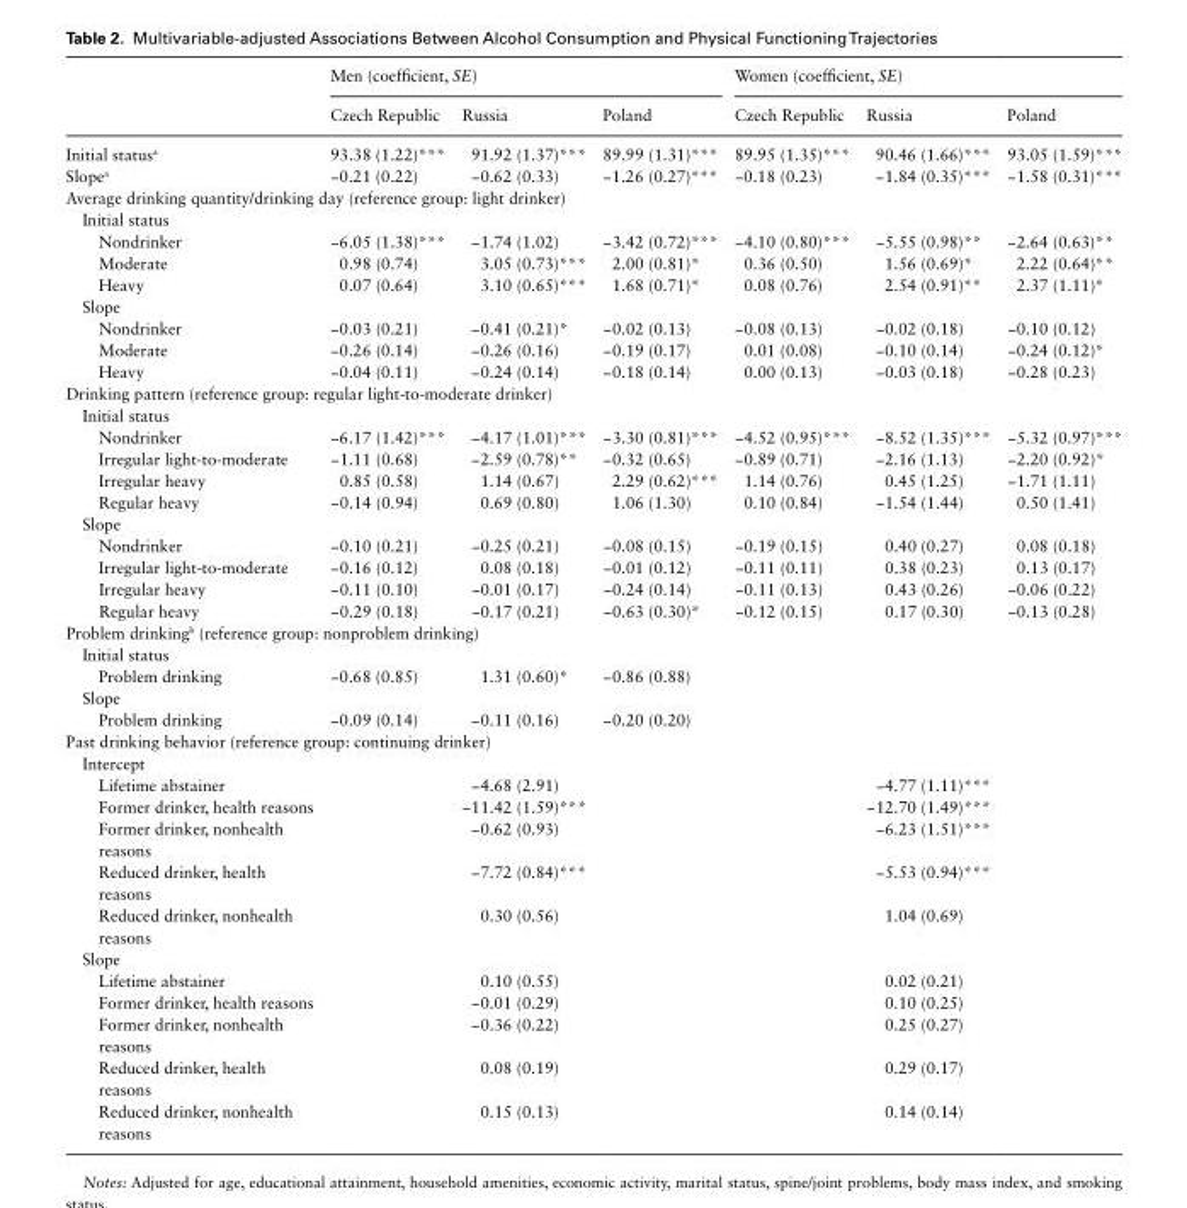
<table><thead><tr><td rowspan="2"></td><td colspan="3">Men (coefficient, SE)</td><td colspan="3">Women (coefficient, SE)</td></tr><tr><td>Czech Republic</td><td>Russia</td><td>Poland</td><td>Czech Republic</td><td>Russia</td><td>Poland</td></tr></thead><tbody><tr><td>Initial status<sup>a</sup></td><td>93.38 (1.22)***</td><td>91.92 (1.37)***</td><td>89.99 (1.31)***</td><td>89.95 (1.35)***</td><td>90.46 (1.66)***</td><td>93.05 (1.59)***</td></tr><tr><td>Slope<sup>a</sup></td><td>−0.21 (0.22)</td><td>−0.62 (0.33)</td><td>−1.26 (0.27)***</td><td>−0.18 (0.23)</td><td>−1.84 (0.35)***</td><td>−1.58 (0.31)***</td></tr><tr><td colspan="7">Average drinking quantity/drinking day (reference group: light drinker)</td></tr><tr><td colspan="7">Initial status</td></tr><tr><td>Nondrinker</td><td>−6.05 (1.38)***</td><td>−1.74 (1.02)</td><td>−3.42 (0.72)***</td><td>−4.10 (0.80)***</td><td>−5.55 (0.98)**</td><td>−2.64 (0.63)**</td></tr><tr><td>Moderate</td><td>0.98 (0.74)</td><td>3.05 (0.73)***</td><td>2.00 (0.81)*</td><td>0.36 (0.50)</td><td>1.56 (0.69)*</td><td>2.22 (0.64)**</td></tr><tr><td>Heavy</td><td>0.07 (0.64)</td><td>3.10 (0.65)***</td><td>1.68 (0.71)*</td><td>0.08 (0.76)</td><td>2.54 (0.91)**</td><td>2.37 (1.11)*</td></tr><tr><td colspan="7">Slope</td></tr><tr><td>Nondrinker</td><td>−0.03 (0.21)</td><td>−0.41 (0.21)*</td><td>−0.02 (0.13)</td><td>−0.08 (0.13)</td><td>−0.02 (0.18)</td><td>−0.10 (0.12)</td></tr><tr><td>Moderate</td><td>−0.26 (0.14)</td><td>−0.26 (0.16)</td><td>−0.19 (0.17)</td><td>0.01 (0.08)</td><td>−0.10 (0.14)</td><td>−0.24 (0.12)*</td></tr><tr><td>Heavy</td><td>−0.04 (0.11)</td><td>−0.24 (0.14)</td><td>−0.18 (0.14)</td><td>0.00 (0.13)</td><td>−0.03 (0.18)</td><td>−0.28 (0.23)</td></tr><tr><td colspan="7">Drinking pattern (reference group: regular light-to-moderate drinker)</td></tr><tr><td colspan="7">Initial status</td></tr><tr><td>Nondrinker</td><td>−6.17 (1.42)***</td><td>−4.17 (1.01)***</td><td>−3.30 (0.81)***</td><td>−4.52 (0.95)***</td><td>−8.52 (1.35)***</td><td>−5.32 (0.97)***</td></tr><tr><td>Irregular light-to-moderate</td><td>−1.11 (0.68)</td><td>−2.59 (0.78)**</td><td>−0.32 (0.65)</td><td>−0.89 (0.71)</td><td>−2.16 (1.13)</td><td>−2.20 (0.92)*</td></tr><tr><td>Irregular heavy</td><td>0.85 (0.58)</td><td>1.14 (0.67)</td><td>2.29 (0.62)***</td><td>1.14 (0.76)</td><td>0.45 (1.25)</td><td>−1.71 (1.11)</td></tr><tr><td>Regular heavy</td><td>−0.14 (0.94)</td><td>0.69 (0.80)</td><td>1.06 (1.30)</td><td>0.10 (0.84)</td><td>−1.54 (1.44)</td><td>0.50 (1.41)</td></tr><tr><td colspan="7">Slope</td></tr><tr><td>Nondrinker</td><td>−0.10 (0.21)</td><td>−0.25 (0.21)</td><td>−0.08 (0.15)</td><td>−0.19 (0.15)</td><td>0.40 (0.27)</td><td>0.08 (0.18)</td></tr><tr><td>Irregular light-to-moderate</td><td>−0.16 (0.12)</td><td>0.08 (0.18)</td><td>−0.01 (0.12)</td><td>−0.11 (0.11)</td><td>0.38 (0.23)</td><td>0.13 (0.17)</td></tr><tr><td>Irregular heavy</td><td>−0.11 (0.10)</td><td>−0.01 (0.17)</td><td>−0.24 (0.14)</td><td>−0.11 (0.13)</td><td>0.43 (0.26)</td><td>−0.06 (0.22)</td></tr><tr><td>Regular heavy</td><td>−0.29 (0.18)</td><td>−0.17 (0.21)</td><td>−0.63 (0.30)*</td><td>−0.12 (0.15)</td><td>0.17 (0.30)</td><td>−0.13 (0.28)</td></tr><tr><td colspan="7">Problem drinking<sup>b</sup> (reference group: nonproblem drinking)</td></tr><tr><td colspan="7">Initial status</td></tr><tr><td>Problem drinking</td><td>−0.68 (0.85)</td><td>1.31 (0.60)*</td><td>−0.86 (0.88)</td><td></td><td></td><td></td></tr><tr><td colspan="7">Slope</td></tr><tr><td>Problem drinking</td><td>−0.09 (0.14)</td><td>−0.11 (0.16)</td><td>−0.20 (0.20)</td><td></td><td></td><td></td></tr><tr><td colspan="7">Past drinking behavior (reference group: continuing drinker)</td></tr><tr><td colspan="7">Intercept</td></tr><tr><td>Lifetime abstainer</td><td></td><td>−4.68 (2.91)</td><td></td><td></td><td>−4.77 (1.11)***</td><td></td></tr><tr><td>Former drinker, health reasons</td><td></td><td>−11.42 (1.59)***</td><td></td><td></td><td>−12.70 (1.49)***</td><td></td></tr><tr><td>Former drinker, nonhealth reasons</td><td></td><td>−0.62 (0.93)</td><td></td><td></td><td>−6.23 (1.51)***</td><td></td></tr><tr><td>Reduced drinker, health reasons</td><td></td><td>−7.72 (0.84)***</td><td></td><td></td><td>−5.53 (0.94)***</td><td></td></tr><tr><td>Reduced drinker, nonhealth reasons</td><td></td><td>0.30 (0.56)</td><td></td><td></td><td>1.04 (0.69)</td><td></td></tr><tr><td colspan="7">Slope</td></tr><tr><td>Lifetime abstainer</td><td></td><td>0.10 (0.55)</td><td></td><td></td><td>0.02 (0.21)</td><td></td></tr><tr><td>Former drinker, health reasons</td><td></td><td>−0.01 (0.29)</td><td></td><td></td><td>0.10 (0.25)</td><td></td></tr><tr><td>Former drinker, nonhealth reasons</td><td></td><td>−0.36 (0.22)</td><td></td><td></td><td>0.25 (0.27)</td><td></td></tr><tr><td>Reduced drinker, health reasons</td><td></td><td>0.08 (0.19)</td><td></td><td></td><td>0.29 (0.17)</td><td></td></tr><tr><td>Reduced drinker, nonhealth reasons</td><td></td><td>0.15 (0.13)</td><td></td><td></td><td>0.14 (0.14)</td><td></td></tr></tbody></table>